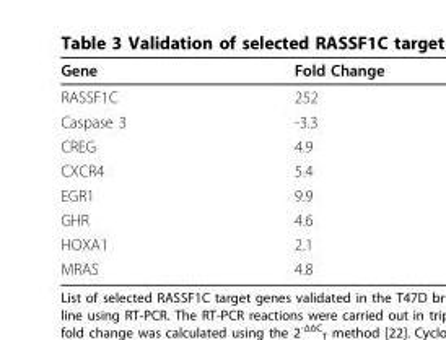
<table><thead><tr><td>Gene</td><td>Fold Change</td></tr></thead><tbody><tr><td>RASSF1C</td><td>252</td></tr><tr><td>Caspase 3</td><td>-3.3</td></tr><tr><td>CREG</td><td>4.9</td></tr><tr><td>CXCR4</td><td>5.4</td></tr><tr><td>EGR1</td><td>9.9</td></tr><tr><td>GHR</td><td>4.6</td></tr><tr><td>HOXA1</td><td>2.1</td></tr><tr><td>MRAS</td><td>4.8</td></tr></tbody></table>